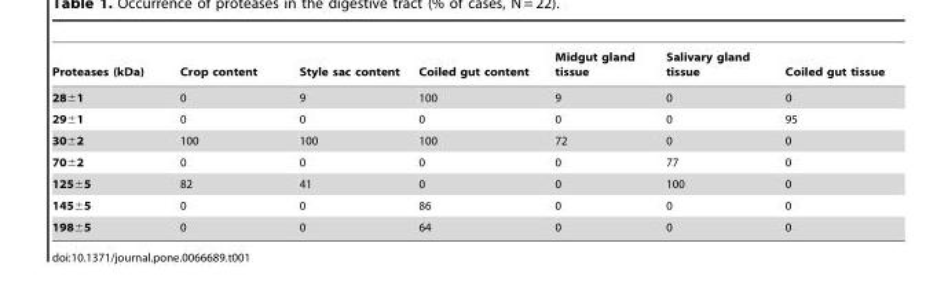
<table><thead><tr><td>Proteases (kDa)</td><td>Crop content</td><td>Style sac content</td><td>Coiled gut content</td><td>Midgut gland tissue</td><td>Salivary gland tissue</td><td>Coiled gut tissue</td></tr></thead><tbody><tr><td>28±1</td><td>0</td><td>9</td><td>100</td><td>9</td><td>0</td><td>0</td></tr><tr><td>29±1</td><td>0</td><td>0</td><td>0</td><td>0</td><td>0</td><td>95</td></tr><tr><td>30±2</td><td>100</td><td>100</td><td>100</td><td>72</td><td>0</td><td>0</td></tr><tr><td>70±2</td><td>0</td><td>0</td><td>0</td><td>0</td><td>77</td><td>0</td></tr><tr><td>125±5</td><td>82</td><td>41</td><td>0</td><td>0</td><td>100</td><td>0</td></tr><tr><td>145±5</td><td>0</td><td>0</td><td>86</td><td>0</td><td>0</td><td>0</td></tr><tr><td>198±5</td><td>0</td><td>0</td><td>64</td><td>0</td><td>0</td><td>0</td></tr></tbody></table>